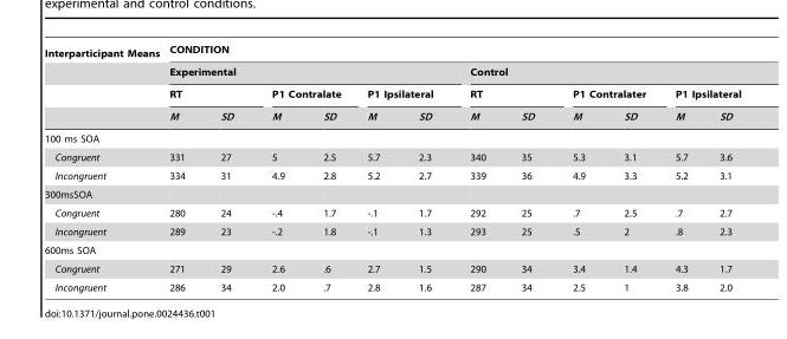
<table><thead><tr><td rowspan="4">Interparticipant Means</td><td colspan="12">CONDITION</td></tr><tr><td colspan="6">Experimental</td><td colspan="6">Control</td></tr><tr><td colspan="2">RT</td><td colspan="2">P1 Contralate</td><td colspan="2">P1 Ipsilateral</td><td colspan="2">RT</td><td colspan="2">P1 Contralater</td><td colspan="2">P1 Ipsilateral</td></tr><tr><td>M</td><td>SD</td><td>M</td><td>SD</td><td>M</td><td>SD</td><td>M</td><td>SD</td><td>M</td><td>SD</td><td>M</td><td>SD</td></tr></thead><tbody><tr><td colspan="13">100 ms SOA</td></tr><tr><td>Congruent</td><td>331</td><td>27</td><td>5</td><td>2.5</td><td>5.7</td><td>2.3</td><td>340</td><td>35</td><td>5.3</td><td>3.1</td><td>5.7</td><td>3.6</td></tr><tr><td>Incongruent</td><td>334</td><td>31</td><td>4.9</td><td>2.8</td><td>5.2</td><td>2.7</td><td>339</td><td>36</td><td>4.9</td><td>3.3</td><td>5.2</td><td>3.1</td></tr><tr><td colspan="13">300msSOA</td></tr><tr><td>Congruent</td><td>280</td><td>24</td><td>-.4</td><td>1.7</td><td>-.1</td><td>1.7</td><td>292</td><td>25</td><td>.7</td><td>2.5</td><td>.7</td><td>2.7</td></tr><tr><td>Incongruent</td><td>289</td><td>23</td><td>-.2</td><td>1.8</td><td>-.1</td><td>1.3</td><td>293</td><td>25</td><td>.5</td><td>2</td><td>.8</td><td>2.3</td></tr><tr><td colspan="13">600ms SOA</td></tr><tr><td>Congruent</td><td>271</td><td>29</td><td>2.6</td><td>.6</td><td>2.7</td><td>1.5</td><td>290</td><td>34</td><td>3.4</td><td>1.4</td><td>4.3</td><td>1.7</td></tr><tr><td>Incongruent</td><td>286</td><td>34</td><td>2.0</td><td>.7</td><td>2.8</td><td>1.6</td><td>287</td><td>34</td><td>2.5</td><td>1</td><td>3.8</td><td>2.0</td></tr></tbody></table>